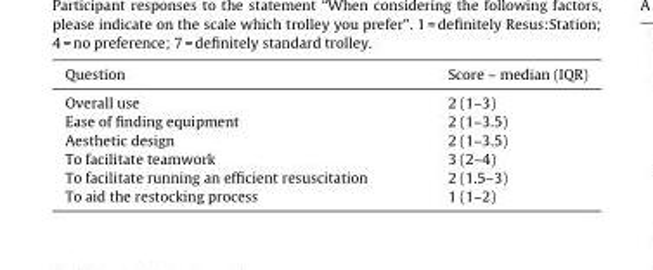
<table><thead><tr><td>Question</td><td>Score – median (IQR)</td></tr></thead><tbody><tr><td>Overall use</td><td>2 (1–3)</td></tr><tr><td>Ease of finding equipment</td><td>2 (1–3.5)</td></tr><tr><td>Aesthetic design</td><td>2 (1–3.5)</td></tr><tr><td>To facilitate teamwork</td><td>3 (2–4)</td></tr><tr><td>To facilitate running an efficient resuscitation</td><td>2 (1.5–3)</td></tr><tr><td>To aid the restocking process</td><td>1 (1–2)</td></tr></tbody></table>